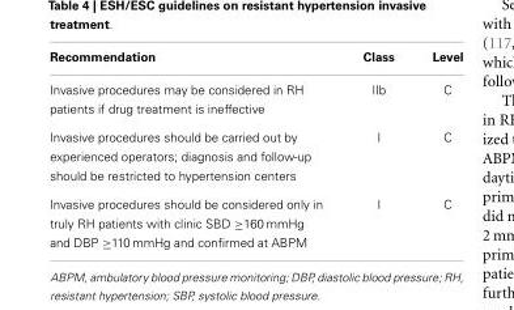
<table><thead><tr><td>Recommendation</td><td>Class</td><td>Level</td></tr></thead><tbody><tr><td>Invasive procedures may be considered in RH patients if drug treatment is ineffective</td><td>IIb</td><td>C</td></tr><tr><td>Invasive procedures should be carried out by experienced operators; diagnosis and follow-up should be restricted to hypertension centers</td><td>I</td><td>C</td></tr><tr><td>Invasive procedures should be considered only in truly RH patients with clinic SBD ≥160 mmHg and DBP ≥110 mmHg and confirmed at ABPM</td><td>I</td><td>C</td></tr></tbody></table>